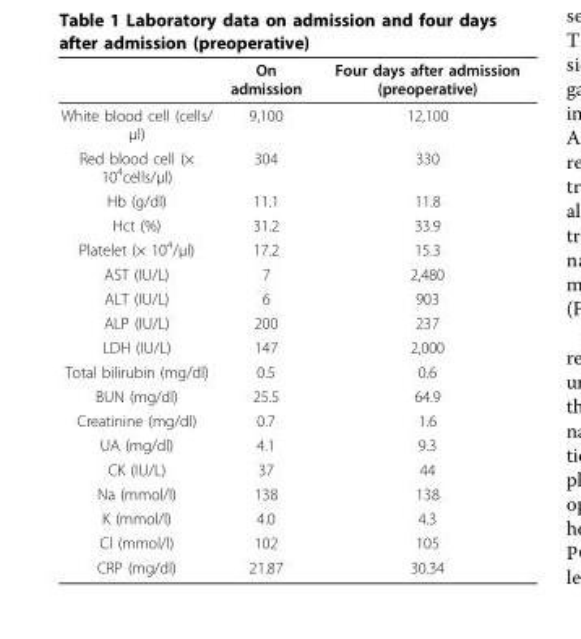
<table><thead><tr><td></td><td>On admission</td><td>Four days after admission (preoperative)</td></tr></thead><tbody><tr><td>White blood cell (cells/ μl)</td><td>9,100</td><td>12,100</td></tr><tr><td>Red blood cell (× 10<sup>4</sup>cells/μl)</td><td>304</td><td>330</td></tr><tr><td>Hb (g/dl)</td><td>11.1</td><td>11.8</td></tr><tr><td>Hct (%)</td><td>31.2</td><td>33.9</td></tr><tr><td>Platelet (× 10<sup>4</sup>/μl)</td><td>17.2</td><td>15.3</td></tr><tr><td>AST (IU/L)</td><td>7</td><td>2,480</td></tr><tr><td>ALT (IU/L)</td><td>6</td><td>903</td></tr><tr><td>ALP (IU/L)</td><td>200</td><td>237</td></tr><tr><td>LDH (IU/L)</td><td>147</td><td>2,000</td></tr><tr><td>Total bilirubin (mg/dl)</td><td>0.5</td><td>0.6</td></tr><tr><td>BUN (mg/dl)</td><td>25.5</td><td>64.9</td></tr><tr><td>Creatinine (mg/dl)</td><td>0.7</td><td>1.6</td></tr><tr><td>UA (mg/dl)</td><td>4.1</td><td>9.3</td></tr><tr><td>CK (IU/L)</td><td>37</td><td>44</td></tr><tr><td>Na (mmol/l)</td><td>138</td><td>138</td></tr><tr><td>K (mmol/l)</td><td>4.0</td><td>4.3</td></tr><tr><td>Cl (mmol/l)</td><td>102</td><td>105</td></tr><tr><td>CRP (mg/dl)</td><td>21.87</td><td>30.34</td></tr></tbody></table>